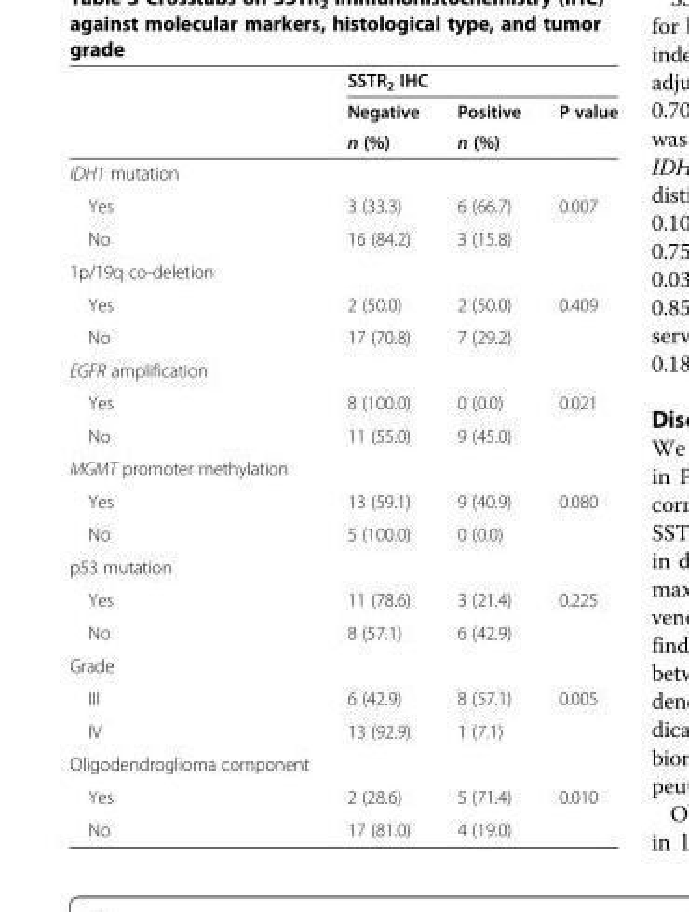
<table><thead><tr><td rowspan="3"></td><td colspan="3">SSTR<sub>2</sub> IHC</td></tr><tr><td rowspan="2">Negative n (%)</td><td rowspan="2">Positive n (%)</td><td rowspan="2">P value</td></tr><tr></tr></thead><tbody><tr><td colspan="4">IDH1 mutation</td></tr><tr><td>Yes</td><td>3 (33.3)</td><td>6 (66.7)</td><td>0.007</td></tr><tr><td>No</td><td>16 (84.2)</td><td>3 (15.8)</td><td></td></tr><tr><td colspan="4">1p/19q co-deletion</td></tr><tr><td>Yes</td><td>2 (50.0)</td><td>2 (50.0)</td><td>0.409</td></tr><tr><td>No</td><td>17 (70.8)</td><td>7 (29.2)</td><td></td></tr><tr><td colspan="4">EGFR amplification</td></tr><tr><td>Yes</td><td>8 (100.0)</td><td>0 (0.0)</td><td>0.021</td></tr><tr><td>No</td><td>11 (55.0)</td><td>9 (45.0)</td><td></td></tr><tr><td colspan="4">MGMT promoter methylation</td></tr><tr><td>Yes</td><td>13 (59.1)</td><td>9 (40.9)</td><td>0.080</td></tr><tr><td>No</td><td>5 (100.0)</td><td>0 (0.0)</td><td></td></tr><tr><td colspan="4">p53 mutation</td></tr><tr><td>Yes</td><td>11 (78.6)</td><td>3 (21.4)</td><td>0.225</td></tr><tr><td>No</td><td>8 (57.1)</td><td>6 (42.9)</td><td></td></tr><tr><td colspan="4">Grade</td></tr><tr><td>III</td><td>6 (42.9)</td><td>8 (57.1)</td><td>0.005</td></tr><tr><td>IV</td><td>13 (92.9)</td><td>1 (7.1)</td><td></td></tr><tr><td colspan="4">Oligodendroglioma component</td></tr><tr><td>Yes</td><td>2 (28.6)</td><td>5 (71.4)</td><td>0.010</td></tr><tr><td>No</td><td>17 (81.0)</td><td>4 (19.0)</td><td></td></tr></tbody></table>